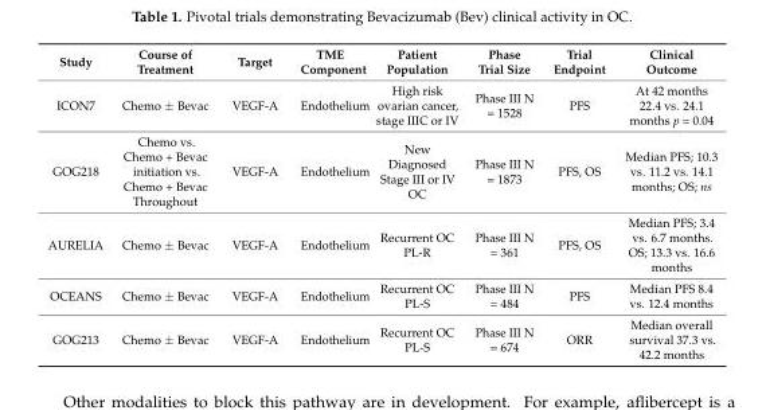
<table><thead><tr><td>Study</td><td>Course of Treatment</td><td>Target</td><td>TME Component</td><td>Patient Population</td><td>Phase Trial Size</td><td>Trial Endpoint</td><td>Clinical Outcome</td></tr></thead><tbody><tr><td>ICON7</td><td>Chemo ± Bevac</td><td>VEGF-A</td><td>Endothelium</td><td>High risk ovarian cancer, stage IIIC or IV</td><td>Phase III N = 1528</td><td>PFS</td><td>At 42 months 22.4 vs. 24.1 months p = 0.04</td></tr><tr><td>GOG218</td><td>Chemo vs. Chemo + Bevac initiation vs. Chemo + Bevac Throughout</td><td>VEGF-A</td><td>Endothelium</td><td>New Diagnosed Stage III or IV OC</td><td>Phase III N = 1873</td><td>PFS, OS</td><td>Median PFS; 10.3 vs. 11.2 vs. 14.1 months; OS; ns</td></tr><tr><td>AURELIA</td><td>Chemo ± Bevac</td><td>VEGF-A</td><td>Endothelium</td><td>Recurrent OC PL-R</td><td>Phase III N = 361</td><td>PFS, OS</td><td>Median PFS; 3.4 vs. 6.7 months. OS; 13.3 vs. 16.6 months</td></tr><tr><td>OCEANS</td><td>Chemo ± Bevac</td><td>VEGF-A</td><td>Endothelium</td><td>Recurrent OC PL-S</td><td>Phase III N = 484</td><td>PFS</td><td>Median PFS 8.4 vs. 12.4 months</td></tr><tr><td>GOG213</td><td>Chemo ± Bevac</td><td>VEGF-A</td><td>Endothelium</td><td>Recurrent OC PL-S</td><td>Phase III N = 674</td><td>ORR</td><td>Median overall survival 37.3 vs. 42.2 months</td></tr></tbody></table>